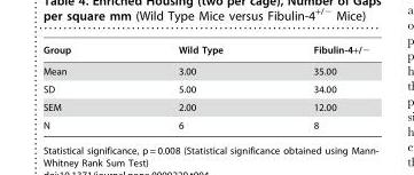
<table><thead><tr><td>Group</td><td>Wild Type</td><td>Fibulin-4+/−</td></tr></thead><tbody><tr><td>Mean</td><td>3.00</td><td>35.00</td></tr><tr><td>SD</td><td>5.00</td><td>34.00</td></tr><tr><td>SEM</td><td>2.00</td><td>12.00</td></tr><tr><td>N</td><td>6</td><td>8</td></tr></tbody></table>